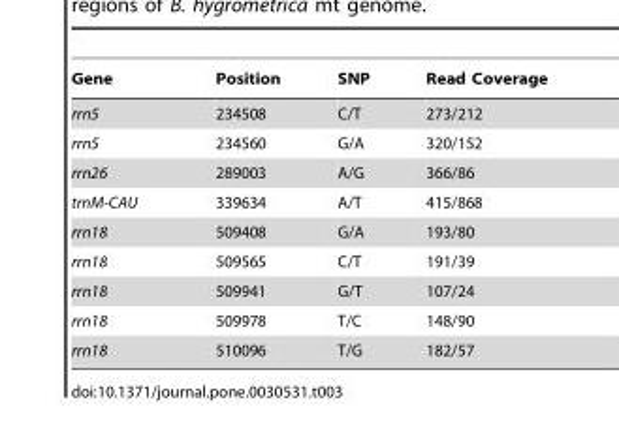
<table><thead><tr><td>Gene</td><td>Position</td><td>SNP</td><td>Read Coverage</td></tr></thead><tbody><tr><td>rrn5</td><td>234508</td><td>C/T</td><td>273/212</td></tr><tr><td>rrn5</td><td>234560</td><td>G/A</td><td>320/152</td></tr><tr><td>rrn26</td><td>289003</td><td>A/G</td><td>366/86</td></tr><tr><td>trnM-CAU</td><td>339634</td><td>A/T</td><td>415/868</td></tr><tr><td>rrn18</td><td>509408</td><td>G/A</td><td>193/80</td></tr><tr><td>rrn18</td><td>509565</td><td>C/T</td><td>191/39</td></tr><tr><td>rrn18</td><td>509941</td><td>G/T</td><td>107/24</td></tr><tr><td>rrn18</td><td>509978</td><td>T/C</td><td>148/90</td></tr><tr><td>rrn18</td><td>510096</td><td>T/G</td><td>182/57</td></tr></tbody></table>